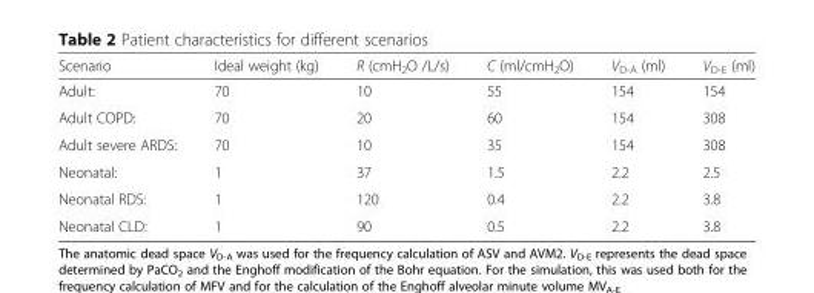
<table><thead><tr><td>Scenario</td><td>Ideal weight (kg)</td><td>R (cmH<sub>2</sub>O /L/s)</td><td>C (ml/cmH<sub>2</sub>O)</td><td>V<sub>D-A</sub> (ml)</td><td>V<sub>D-E</sub> (ml)</td></tr></thead><tbody><tr><td>Adult:</td><td>70</td><td>10</td><td>55</td><td>154</td><td>154</td></tr><tr><td>Adult COPD:</td><td>70</td><td>20</td><td>60</td><td>154</td><td>308</td></tr><tr><td>Adult severe ARDS:</td><td>70</td><td>10</td><td>35</td><td>154</td><td>308</td></tr><tr><td>Neonatal:</td><td>1</td><td>37</td><td>1.5</td><td>2.2</td><td>2.5</td></tr><tr><td>Neonatal RDS:</td><td>1</td><td>120</td><td>0.4</td><td>2.2</td><td>3.8</td></tr><tr><td>Neonatal CLD:</td><td>1</td><td>90</td><td>0.5</td><td>2.2</td><td>3.8</td></tr></tbody></table>